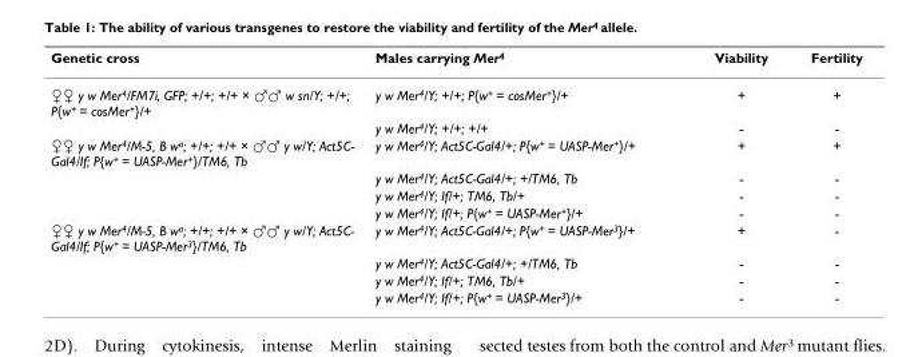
<table><thead><tr><td>Genetic cross</td><td>Males carrying Mer<sup>4</sup></td><td>Viability</td><td>Fertility</td></tr></thead><tbody><tr><td rowspan="2">♀♀ y w Mer<sup>4</sup>/FM7i, GFP; +/+; +/+ × ♂♂ w sn/Y; +/+; P{w<sup>+</sup> = cosMer<sup>+</sup>}/+</td><td>y w Mer<sup>4</sup>/Y; +/+; P{w<sup>+</sup> = cosMer<sup>+</sup>}/+</td><td>+</td><td>+</td></tr><tr><td>y w Mer<sup>4</sup>/Y; +/+; +/+</td><td>-</td><td>-</td></tr><tr><td rowspan="4">♀♀ y w Mer<sup>4</sup>/M-5, B w<sup>a</sup>; +/+; +/+ × ♂♂ y w/Y; Act5C- Gal4/If; P{w<sup>+</sup> = UASP-Mer<sup>+</sup>}/TM6, Tb</td><td>y w Mer<sup>4</sup>/Y; Act5C-Gal4/+; P{w<sup>+</sup> = UASP-Mer<sup>+</sup>}/+</td><td>+</td><td>+</td></tr><tr><td>y w Mer<sup>4</sup>/Y; Act5C-Gal4/+; +/TM6, Tb</td><td>-</td><td>-</td></tr><tr><td>y w Mer<sup>4</sup>/Y; If/+; TM6, Tb/+</td><td>-</td><td>-</td></tr><tr><td>y w Mer<sup>4</sup>/Y; If/+; P{w<sup>+</sup> = UASP-Mer<sup>+</sup>}/+</td><td>-</td><td>-</td></tr><tr><td rowspan="4">♀♀ y w Mer<sup>4</sup>/M-5, B w<sup>a</sup>; +/+; +/+ × ♂♂ y w/Y; Act5C- Gal4/If; P{w<sup>+</sup> = UASP-Mer<sup>3</sup>}/TM6, Tb</td><td>y w Mer<sup>4</sup>/Y; Act5C-Gal4/+; P{w<sup>+</sup> = UASP-Mer<sup>3</sup>}/+</td><td>+</td><td>-</td></tr><tr><td>y w Mer<sup>4</sup>/Y; Act5C-Gal4/+; +/TM6, Tb</td><td>-</td><td>-</td></tr><tr><td>y w Mer<sup>4</sup>/Y; If/+; TM6, Tb/+</td><td>-</td><td>-</td></tr><tr><td>y w Mer<sup>4</sup>/Y; If/+; P{w<sup>+</sup> = UASP-Mer<sup>3</sup>}/+</td><td>-</td><td>-</td></tr></tbody></table>